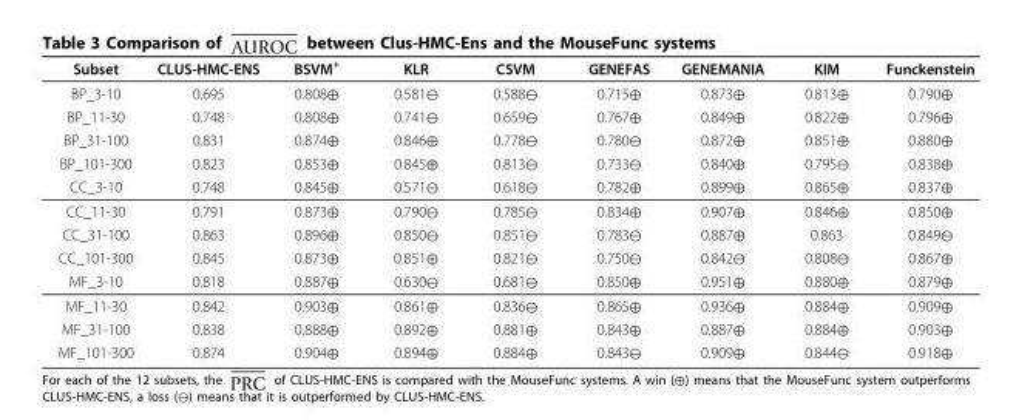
<table><thead><tr><td>Subset</td><td>CLUS-HMC-ENS</td><td>BSVM<sup>+</sup></td><td>KLR</td><td>CSVM</td><td>GENEFAS</td><td>GENEMANIA</td><td>KIM</td><td>Funckenstein</td></tr></thead><tbody><tr><td>BP_3-10</td><td>0.695</td><td>0.808⊕</td><td>0.581⊖</td><td>0.588⊖</td><td>0.715⊕</td><td>0.873⊕</td><td>0.813⊕</td><td>0.790⊕</td></tr><tr><td>BP_11-30</td><td>0.748</td><td>0.808⊕</td><td>0.741⊖</td><td>0.659⊖</td><td>0.767⊕</td><td>0.849⊕</td><td>0.822⊕</td><td>0.796⊕</td></tr><tr><td>BP_31-100</td><td>0.831</td><td>0.874⊕</td><td>0.846⊕</td><td>0.778⊖</td><td>0.780⊖</td><td>0.872⊕</td><td>0.851⊕</td><td>0.880⊕</td></tr><tr><td>BP_101-300</td><td>0.823</td><td>0.853⊕</td><td>0.845⊕</td><td>0.813⊖</td><td>0.733⊖</td><td>0.840⊕</td><td>0.795⊖</td><td>0.838⊕</td></tr><tr><td>CC_3-10</td><td>0.748</td><td>0.845⊕</td><td>0.571⊖</td><td>0.618⊖</td><td>0.782⊕</td><td>0.899⊕</td><td>0.865⊕</td><td>0.837⊕</td></tr><tr><td>CC_11-30</td><td>0.791</td><td>0.873⊕</td><td>0.790⊖</td><td>0.785⊖</td><td>0.834⊕</td><td>0.907⊕</td><td>0.846⊕</td><td>0.850⊕</td></tr><tr><td>CC_31-100</td><td>0.863</td><td>0.896⊕</td><td>0.850⊖</td><td>0.851⊖</td><td>0.783⊖</td><td>0.887⊕</td><td>0.863</td><td>0.849⊖</td></tr><tr><td>CC_101-300</td><td>0.845</td><td>0.873⊕</td><td>0.851⊕</td><td>0.821⊖</td><td>0.750⊖</td><td>0.842⊖</td><td>0.808⊖</td><td>0.867⊕</td></tr><tr><td>MF_3-10</td><td>0.818</td><td>0.887⊕</td><td>0.630⊖</td><td>0.681⊖</td><td>0.850⊕</td><td>0.951⊕</td><td>0.880⊕</td><td>0.879⊕</td></tr><tr><td>MF_11-30</td><td>0.842</td><td>0.903⊕</td><td>0.861⊕</td><td>0.836⊖</td><td>0.865⊕</td><td>0.936⊕</td><td>0.884⊕</td><td>0.909⊕</td></tr><tr><td>MF_31-100</td><td>0.838</td><td>0.888⊕</td><td>0.892⊕</td><td>0.881⊕</td><td>0.843⊕</td><td>0.887⊕</td><td>0.884⊕</td><td>0.903⊕</td></tr><tr><td>MF_101-300</td><td>0.874</td><td>0.904⊕</td><td>0.894⊕</td><td>0.884⊕</td><td>0.843⊖</td><td>0.909⊕</td><td>0.844⊖</td><td>0.918⊕</td></tr></tbody></table>